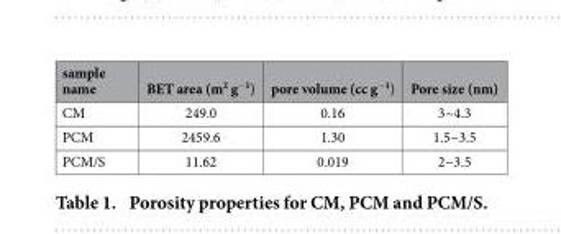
<table><thead><tr><td>sample name</td><td>BET area (m<sup>2</sup> g<sup>−1</sup>)</td><td>pore volume (cc g<sup>−1</sup>)</td><td>Pore size (nm)</td></tr></thead><tbody><tr><td>CM</td><td>249.0</td><td>0.16</td><td>3~4.3</td></tr><tr><td>PCM</td><td>2459.6</td><td>1.30</td><td>1.5~3.5</td></tr><tr><td>PCM/S</td><td>11.62</td><td>0.019</td><td>2~3.5</td></tr></tbody></table>